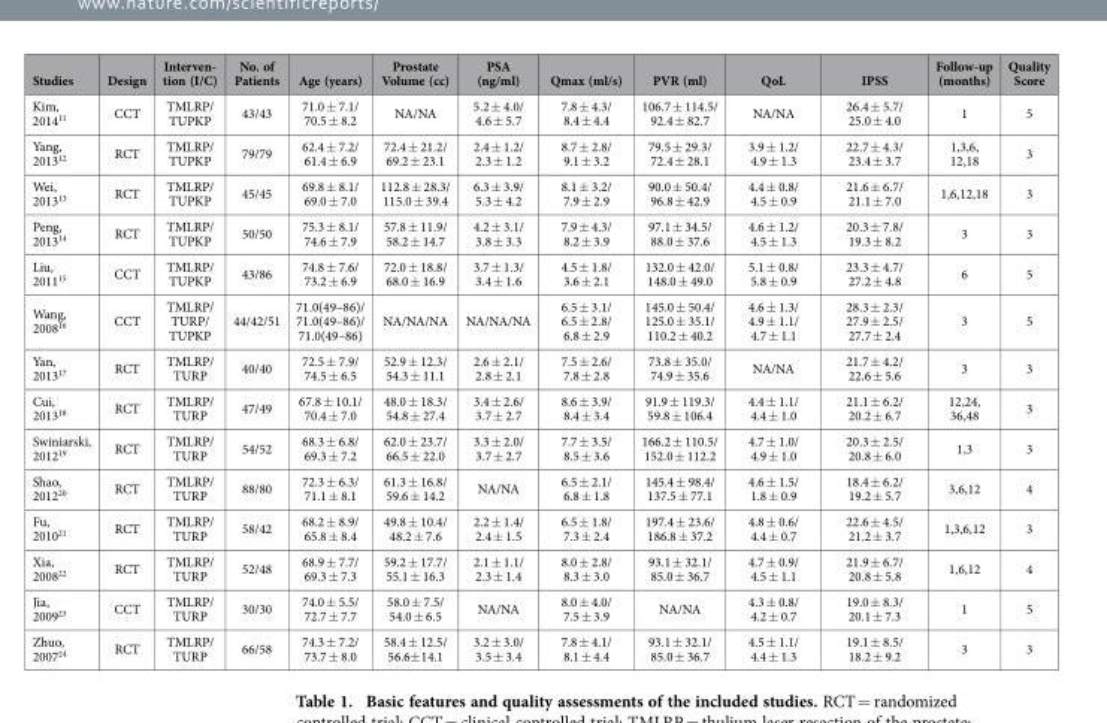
<table><thead><tr><td>Studies</td><td>Design</td><td>Interven- tion (I/C)</td><td>No. of Patients</td><td>Age (years)</td><td>Prostate Volume (cc)</td><td>PSA (ng/ml)</td><td>Qmax (ml/s)</td><td>PVR (ml)</td><td>QoL</td><td>IPSS</td><td>Follow-up (months)</td><td>Quality Score</td></tr></thead><tbody><tr><td>Kim, 2014<sup>11</sup></td><td>CCT</td><td>TMLRP/ TUPKP</td><td>43/43</td><td>71.0 ± 7.1/ 70.5 ± 8.2</td><td>NA/NA</td><td>5.2 ± 4.0/ 4.6 ± 5.7</td><td>7.8 ± 4.3/ 8.4 ± 4.4</td><td>106.7 ± 114.5/ 92.4 ± 82.7</td><td>NA/NA</td><td>26.4 ± 5.7/ 25.0 ± 4.0</td><td>1</td><td>5</td></tr><tr><td>Yang, 2013<sup>12</sup></td><td>RCT</td><td>TMLRP/ TUPKP</td><td>79/79</td><td>62.4 ± 7.2/ 61.4 ± 6.9</td><td>72.4 ± 21.2/ 69.2 ± 23.1</td><td>2.4 ± 1.2/ 2.3 ± 1.2</td><td>8.7 ± 2.8/ 9.1 ± 3.2</td><td>79.5 ± 29.3/ 72.4 ± 28.1</td><td>3.9 ± 1.2/ 4.9 ± 1.3</td><td>22.7 ± 4.3/ 23.4 ± 3.7</td><td>1,3,6, 12,18</td><td>3</td></tr><tr><td>Wei, 2013<sup>13</sup></td><td>RCT</td><td>TMLRP/ TUPKP</td><td>45/45</td><td>69.8 ± 8.1/ 69.0 ± 7.0</td><td>112.8 ± 28.3/ 115.0 ± 39.4</td><td>6.3 ± 3.9/ 5.3 ± 4.2</td><td>8.1 ± 3.2/ 7.9 ± 2.9</td><td>90.0 ± 50.4/ 96.8 ± 42.9</td><td>4.4 ± 0.8/ 4.5 ± 0.9</td><td>21.6 ± 6.7/ 21.1 ± 7.0</td><td>1,6,12,18</td><td>3</td></tr><tr><td>Peng, 2013<sup>14</sup></td><td>RCT</td><td>TMLRP/ TUPKP</td><td>50/50</td><td>75.3 ± 8.1/ 74.6 ± 7.9</td><td>57.8 ± 11.9/ 58.2 ± 14.7</td><td>4.2 ± 3.1/ 3.8 ± 3.3</td><td>7.9 ± 4.3/ 8.2 ± 3.9</td><td>97.1 ± 34.5/ 88.0 ± 37.6</td><td>4.6 ± 1.2/ 4.5 ± 1.3</td><td>20.3 ± 7.8/ 19.3 ± 8.2</td><td>3</td><td>3</td></tr><tr><td>Liu, 2011<sup>15</sup></td><td>CCT</td><td>TMLRP/ TUPKP</td><td>43/86</td><td>74.8 ± 7.6/ 73.2 ± 6.9</td><td>72.0 ± 18.8/ 68.0 ± 16.9</td><td>3.7 ± 1.3/ 3.4 ± 1.6</td><td>4.5 ± 1.8/ 3.6 ± 2.1</td><td>132.0 ± 42.0/ 148.0 ± 49.0</td><td>5.1 ± 0.8/ 5.8 ± 0.9</td><td>23.3 ± 4.7/ 27.2 ± 4.8</td><td>6</td><td>5</td></tr><tr><td>Wang, 2008<sup>16</sup></td><td>CCT</td><td>TMLRP/ TURP/ TUPKP</td><td>44/42/51</td><td>71.0(49–86)/ 71.0(49–86)/ 71.0(49–86)</td><td>NA/NA/NA</td><td>NA/NA/NA</td><td>6.5 ± 3.1/ 6.5 ± 2.8/ 6.8 ± 2.9</td><td>145.0 ± 50.4/ 125.0 ± 35.1/ 110.2 ± 40.2</td><td>4.6 ± 1.3/ 4.9 ± 1.1/ 4.7 ± 1.1</td><td>28.3 ± 2.3/ 27.9 ± 2.5/ 27.7 ± 2.4</td><td>3</td><td>5</td></tr><tr><td>Yan, 2013<sup>17</sup></td><td>RCT</td><td>TMLRP/ TURP</td><td>40/40</td><td>72.5 ± 7.9/ 74.5 ± 6.5</td><td>52.9 ± 12.3/ 54.3 ± 11.1</td><td>2.6 ± 2.1/ 2.8 ± 2.1</td><td>7.5 ± 2.6/ 7.8 ± 2.8</td><td>73.8 ± 35.0/ 74.9 ± 35.6</td><td>NA/NA</td><td>21.7 ± 4.2/ 22.6 ± 5.6</td><td>3</td><td>3</td></tr><tr><td>Cui, 2013<sup>18</sup></td><td>RCT</td><td>TMLRP/ TURP</td><td>47/49</td><td>67.8 ± 10.1/ 70.4 ± 7.0</td><td>48.0 ± 18.3/ 54.8 ± 27.4</td><td>3.4 ± 2.6/ 3.7 ± 2.7</td><td>8.6 ± 3.9/ 8.4 ± 3.4</td><td>91.9 ± 119.3/ 59.8 ± 106.4</td><td>4.4 ± 1.1/ 4.4 ± 1.0</td><td>21.1 ± 6.2/ 20.2 ± 6.7</td><td>12,24, 36,48</td><td>3</td></tr><tr><td>Swiniarski, 2012<sup>19</sup></td><td>RCT</td><td>TMLRP/ TURP</td><td>54/52</td><td>68.3 ± 6.8/ 69.3 ± 7.2</td><td>62.0 ± 23.7/ 66.5 ± 22.0</td><td>3.3 ± 2.0/ 3.7 ± 2.7</td><td>7.7 ± 3.5/ 8.5 ± 3.6</td><td>166.2 ± 110.5/ 152.0 ± 112.2</td><td>4.7 ± 1.0/ 4.9 ± 1.0</td><td>20.3 ± 2.5/ 20.8 ± 6.0</td><td>1,3</td><td>3</td></tr><tr><td>Shao, 2012<sup>20</sup></td><td>RCT</td><td>TMLRP/ TURP</td><td>88/80</td><td>72.3 ± 6.3/ 71.1 ± 8.1</td><td>61.3 ± 16.8/ 59.6 ± 14.2</td><td>NA/NA</td><td>6.5 ± 2.1/ 6.8 ± 1.8</td><td>145.4 ± 98.4/ 137.5 ± 77.1</td><td>4.6 ± 1.5/ 1.8 ± 0.9</td><td>18.4 ± 6.2/ 19.2 ± 5.7</td><td>3,6,12</td><td>4</td></tr><tr><td>Fu, 2010<sup>21</sup></td><td>RCT</td><td>TMLRP/ TURP</td><td>58/42</td><td>68.2 ± 8.9/ 65.8 ± 8.4</td><td>49.8 ± 10.4/ 48.2 ± 7.6</td><td>2.2 ± 1.4/ 2.4 ± 1.5</td><td>6.5 ± 1.8/ 7.3 ± 2.4</td><td>197.4 ± 23.6/ 186.8 ± 37.2</td><td>4.8 ± 0.6/ 4.4 ± 0.7</td><td>22.6 ± 4.5/ 21.2 ± 3.7</td><td>1,3,6,12</td><td>3</td></tr><tr><td>Xia, 2008<sup>22</sup></td><td>RCT</td><td>TMLRP/ TURP</td><td>52/48</td><td>68.9 ± 7.7/ 69.3 ± 7.3</td><td>59.2 ± 17.7/ 55.1 ± 16.3</td><td>2.1 ± 1.1/ 2.3 ± 1.4</td><td>8.0 ± 2.8/ 8.3 ± 3.0</td><td>93.1 ± 32.1/ 85.0 ± 36.7</td><td>4.7 ± 0.9/ 4.5 ± 1.1</td><td>21.9 ± 6.7/ 20.8 ± 5.8</td><td>1,6,12</td><td>4</td></tr><tr><td>Jia, 2009<sup>23</sup></td><td>CCT</td><td>TMLRP/ TURP</td><td>30/30</td><td>74.0 ± 5.5/ 72.7 ± 7.7</td><td>58.0 ± 7.5/ 54.0 ± 6.5</td><td>NA/NA</td><td>8.0 ± 4.0/ 7.5 ± 3.9</td><td>NA/NA</td><td>4.3 ± 0.8/ 4.2 ± 0.7</td><td>19.0 ± 8.3/ 20.1 ± 7.3</td><td>1</td><td>5</td></tr><tr><td>Zhuo, 2007<sup>24</sup></td><td>RCT</td><td>TMLRP/ TURP</td><td>66/58</td><td>74.3 ± 7.2/ 73.7 ± 8.0</td><td>58.4 ± 12.5/ 56.6± 14.1</td><td>3.2 ± 3.0/ 3.5 ± 3.4</td><td>7.8 ± 4.1/ 8.1 ± 4.4</td><td>93.1 ± 32.1/ 85.0 ± 36.7</td><td>4.5 ± 1.1/ 4.4 ± 1.3</td><td>19.1 ± 8.5/ 18.2 ± 9.2</td><td>3</td><td>3</td></tr></tbody></table>